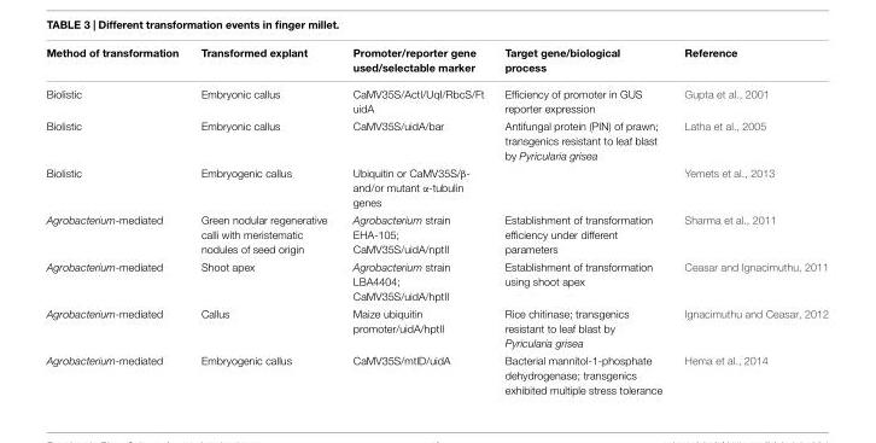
<table><thead><tr><td>Method of transformation</td><td>Transformed explant</td><td>Promoter/reporter gene used/selectable marker</td><td>Target gene/biological process</td><td>Reference</td></tr></thead><tbody><tr><td>Biolistic</td><td>Embryonic callus</td><td>CaMV35S/ActI/UqI/RbcS/Ft uidA</td><td>Efficiency of promoter in GUS reporter expression</td><td>Gupta et al., 2001</td></tr><tr><td>Biolistic</td><td>Embryonic callus</td><td>CaMV35S/uidA/bar</td><td>Antifungal protein (PIN) of prawn; transgenics resistant to leaf blast by Pyricularia grisea</td><td>Latha et al., 2005</td></tr><tr><td>Biolistic</td><td>Embryogenic callus</td><td>Ubiquitin or CaMV35S/β- and/or mutant α-tubulin genes</td><td></td><td>Yemets et al., 2013</td></tr><tr><td>Agrobacterium-mediated</td><td>Green nodular regenerative calli with meristematic nodules of seed origin</td><td>Agrobacterium strain EHA-105; CaMV35S/uidA/nptII</td><td>Establishment of transformation efficiency under different parameters</td><td>Sharma et al., 2011</td></tr><tr><td>Agrobacterium-mediated</td><td>Shoot apex</td><td>Agrobacterium strain LBA4404; CaMV35S/uidA/hptII</td><td>Establishment of transformation using shoot apex</td><td>Ceasar and Ignacimuthu, 2011</td></tr><tr><td>Agrobacterium-mediated</td><td>Callus</td><td>Maize ubiquitin promoter/uidA/hptII</td><td>Rice chitinase; transgenics resistant to leaf blast by Pyricularia grisea</td><td>Ignacimuthu and Ceasar, 2012</td></tr><tr><td>Agrobacterium-mediated</td><td>Embryogenic callus</td><td>CaMV35S/mtlD/uidA</td><td>Bacterial mannitol-1-phosphate dehydrogenase; transgenics exhibited multiple stress tolerance</td><td>Hema et al., 2014</td></tr></tbody></table>